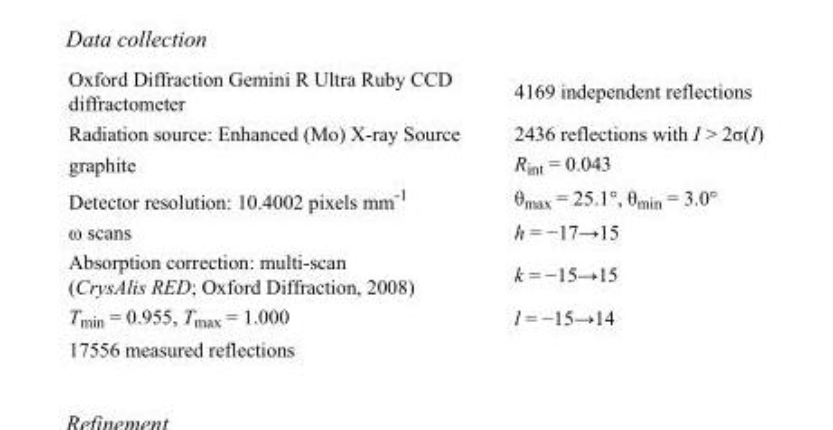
<table><tbody><tr><td>Oxford Diffraction Gemini R Ultra Ruby CCD diffractometer</td><td>4169 independent reflections</td></tr><tr><td>Radiation source: Enhanced (Mo) X-ray Source</td><td>2436 reflections with I &gt; 2σ(I)</td></tr><tr><td>graphite</td><td>R<sub>int</sub> = 0.043</td></tr><tr><td>Detector resolution: 10.4002 pixels mm<sup>-1</sup></td><td>θ<sub>max</sub> = 25.1°, θ<sub>min</sub> = 3.0°</td></tr><tr><td>ω scans</td><td>h = −17→15</td></tr><tr><td>Absorption correction: multi-scan (CrysAlis RED; Oxford Diffraction, 2008)</td><td>k = −15→15</td></tr><tr><td>T<sub>min</sub> = 0.955, T<sub>max</sub> = 1.000</td><td>l = −15→14</td></tr><tr><td>17556 measured reflections</td><td></td></tr></tbody></table>